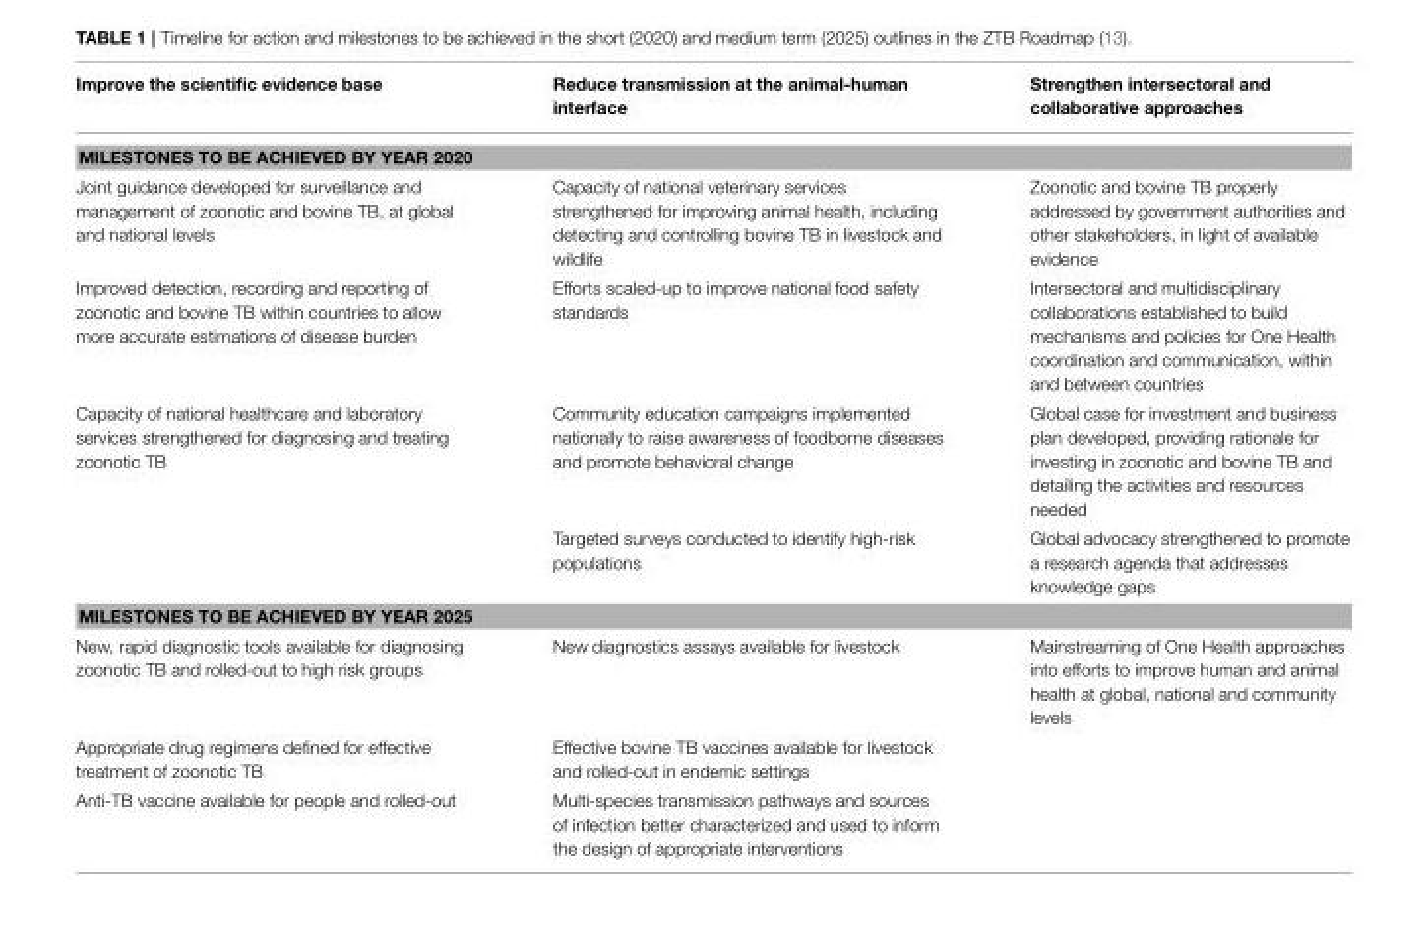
<table><thead><tr><td>Improve the scientific evidence base</td><td>Reduce transmission at the animal-human interface</td><td>Strengthen intersectoral and collaborative approaches</td></tr></thead><tbody><tr><td colspan="3">MILESTONES TO BE ACHIEVED BY YEAR 2020</td></tr><tr><td>Joint guidance developed for surveillance and management of zoonotic and bovine TB, at global and national levels</td><td>Capacity of national veterinary services strengthened for improving animal health, including detecting and controlling bovine TB in livestock and wildlife</td><td>Zoonotic and bovine TB properly addressed by government authorities and other stakeholders, in light of available evidence</td></tr><tr><td>Improved detection, recording and reporting of zoonotic and bovine TB within countries to allow more accurate estimations of disease burden</td><td>Efforts scaled-up to improve national food safety standards</td><td>Intersectoral and multidisciplinary collaborations established to build mechanisms and policies for One Health coordination and communication, within and between countries</td></tr><tr><td rowspan="2">Capacity of national healthcare and laboratory services strengthened for diagnosing and treating zoonotic TB</td><td>Community education campaigns implemented nationally to raise awareness of foodborne diseases and promote behavioral change</td><td>Global case for investment and business plan developed, providing rationale for investing in zoonotic and bovine TB and detailing the activities and resources needed</td></tr><tr><td>Targeted surveys conducted to identify high-risk populations</td><td>Global advocacy strengthened to promote a research agenda that addresses knowledge gaps</td></tr><tr><td colspan="3">MILESTONES TO BE ACHIEVED BY YEAR 2025</td></tr><tr><td>New, rapid diagnostic tools available for diagnosing zoonotic TB and rolled-out to high risk groups</td><td>New diagnostics assays available for livestock</td><td>Mainstreaming of One Health approaches into efforts to improve human and animal health at global, national and community levels</td></tr><tr><td>Appropriate drug regimens defined for effective treatment of zoonotic TB</td><td>Effective bovine TB vaccines available for livestock and rolled-out in endemic settings</td><td></td></tr><tr><td>Anti-TB vaccine available for people and rolled-out</td><td>Multi-species transmission pathways and sources of infection better characterized and used to inform the design of appropriate interventions</td><td></td></tr></tbody></table>